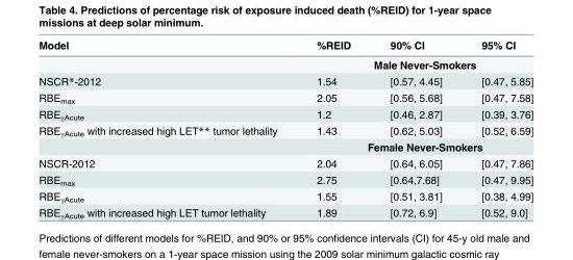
<table><thead><tr><td>Model</td><td>%REID</td><td>90% CI</td><td>95% CI</td></tr></thead><tbody><tr><td colspan="4">Male Never-Smokers</td></tr><tr><td>NSCR*-2012</td><td>1.54</td><td>[0.57, 4.45]</td><td>[0.47, 5.85]</td></tr><tr><td>RBE<sub>max</sub></td><td>2.05</td><td>[0.56, 5.68]</td><td>[0.47, 7.58]</td></tr><tr><td>RBE<sub>γAcute</sub></td><td>1.2</td><td>[0.46, 2.87]</td><td>[0.39, 3.76]</td></tr><tr><td>RBE<sub>γAcute</sub> with increased high LET** tumor lethality</td><td>1.43</td><td>[0.62, 5.03]</td><td>[0.52, 6.59]</td></tr><tr><td colspan="4">Female Never-Smokers</td></tr><tr><td>NSCR-2012</td><td>2.04</td><td>[0.64, 6.05]</td><td>[0.47, 7.86]</td></tr><tr><td>RBE<sub>max</sub></td><td>2.75</td><td>[0.64,7.68]</td><td>[0.47, 9.95]</td></tr><tr><td>RBE<sub>γAcute</sub></td><td>1.55</td><td>[0.51, 3.81]</td><td>[0.38, 4.99]</td></tr><tr><td>RBE<sub>γAcute</sub> with increased high LET tumor lethality</td><td>1.89</td><td>[0.72, 6.9]</td><td>[0.52, 9.0]</td></tr></tbody></table>